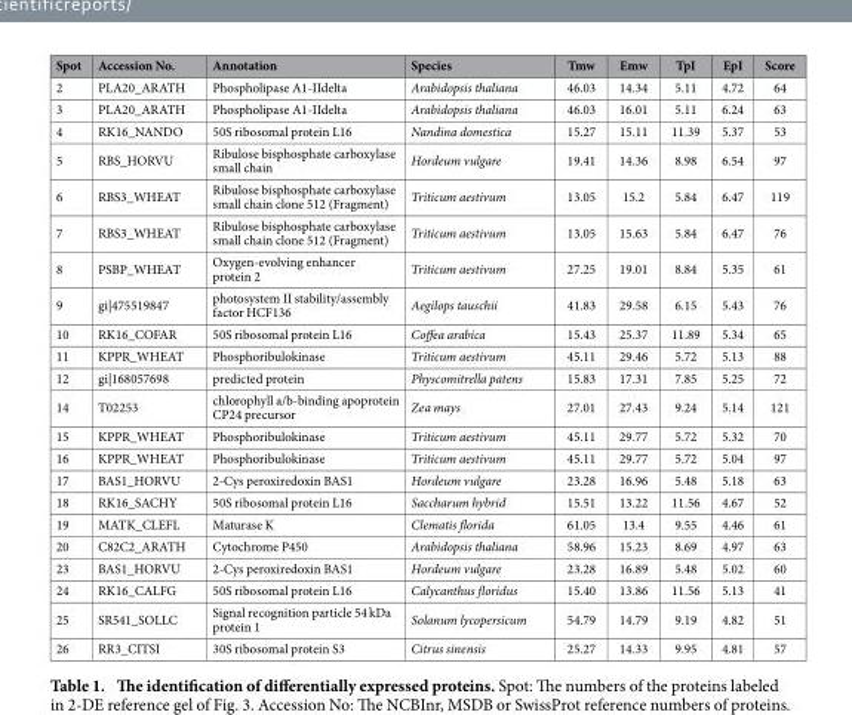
<table><thead><tr><td>Spot</td><td>Accession No.</td><td>Annotation</td><td>Species</td><td>Tmw</td><td>Emw</td><td>TpI</td><td>EpI</td><td>Score</td></tr></thead><tbody><tr><td>2</td><td>PLA20_ARATH</td><td>Phospholipase A1-IIdelta</td><td>Arabidopsis thaliana</td><td>46.03</td><td>14.34</td><td>5.11</td><td>4.72</td><td>64</td></tr><tr><td>3</td><td>PLA20_ARATH</td><td>Phospholipase A1-IIdelta</td><td>Arabidopsis thaliana</td><td>46.03</td><td>16.01</td><td>5.11</td><td>6.24</td><td>63</td></tr><tr><td>4</td><td>RK16_NANDO</td><td>50S ribosomal protein L16</td><td>Nandina domestica</td><td>15.27</td><td>15.11</td><td>11.39</td><td>5.37</td><td>53</td></tr><tr><td>5</td><td>RBS_HORVU</td><td>Ribulose bisphosphate carboxylase small chain</td><td>Hordeum vulgare</td><td>19.41</td><td>14.36</td><td>8.98</td><td>6.54</td><td>97</td></tr><tr><td>6</td><td>RBS3_WHEAT</td><td>Ribulose bisphosphate carboxylase small chain clone 512 (Fragment)</td><td>Triticum aestivum</td><td>13.05</td><td>15.2</td><td>5.84</td><td>6.47</td><td>119</td></tr><tr><td>7</td><td>RBS3_WHEAT</td><td>Ribulose bisphosphate carboxylase small chain clone 512 (Fragment)</td><td>Triticum aestivum</td><td>13.05</td><td>15.63</td><td>5.84</td><td>6.47</td><td>76</td></tr><tr><td>8</td><td>PSBP_WHEAT</td><td>Oxygen-evolving enhancer protein 2</td><td>Triticum aestivum</td><td>27.25</td><td>19.01</td><td>8.84</td><td>5.35</td><td>61</td></tr><tr><td>9</td><td>gi|475519847</td><td>photosystem II stability/assembly factor HCF136</td><td>Aegilops tauschii</td><td>41.83</td><td>29.58</td><td>6.15</td><td>5.43</td><td>76</td></tr><tr><td>10</td><td>RK16_COFAR</td><td>50S ribosomal protein L16</td><td>Coffea arabica</td><td>15.43</td><td>25.37</td><td>11.89</td><td>5.34</td><td>65</td></tr><tr><td>11</td><td>KPPR_WHEAT</td><td>Phosphoribulokinase</td><td>Triticum aestivum</td><td>45.11</td><td>29.46</td><td>5.72</td><td>5.13</td><td>88</td></tr><tr><td>12</td><td>gi|168057698</td><td>predicted protein</td><td>Physcomitrella patens</td><td>15.83</td><td>17.31</td><td>7.85</td><td>5.25</td><td>72</td></tr><tr><td>14</td><td>T02253</td><td>chlorophyll a/b-binding apoprotein CP24 precursor</td><td>Zea mays</td><td>27.01</td><td>27.43</td><td>9.24</td><td>5.14</td><td>121</td></tr><tr><td>15</td><td>KPPR_WHEAT</td><td>Phosphoribulokinase</td><td>Triticum aestivum</td><td>45.11</td><td>29.77</td><td>5.72</td><td>5.32</td><td>70</td></tr><tr><td>16</td><td>KPPR_WHEAT</td><td>Phosphoribulokinase</td><td>Triticum aestivum</td><td>45.11</td><td>29.77</td><td>5.72</td><td>5.04</td><td>97</td></tr><tr><td>17</td><td>BAS1_HORVU</td><td>2-Cys peroxiredoxin BAS1</td><td>Hordeum vulgare</td><td>23.28</td><td>16.96</td><td>5.48</td><td>5.18</td><td>63</td></tr><tr><td>18</td><td>RK16_SACHY</td><td>50S ribosomal protein L16</td><td>Saccharum hybrid</td><td>15.51</td><td>13.22</td><td>11.56</td><td>4.67</td><td>52</td></tr><tr><td>19</td><td>MATK_CLEFL</td><td>Maturase K</td><td>Clematis florida</td><td>61.05</td><td>13.4</td><td>9.55</td><td>4.46</td><td>61</td></tr><tr><td>20</td><td>C82C2_ARATH</td><td>Cytochrome P450</td><td>Arabidopsis thaliana</td><td>58.96</td><td>15.23</td><td>8.69</td><td>4.97</td><td>63</td></tr><tr><td>23</td><td>BAS1_HORVU</td><td>2-Cys peroxiredoxin BAS1</td><td>Hordeum vulgare</td><td>23.28</td><td>16.89</td><td>5.48</td><td>5.02</td><td>60</td></tr><tr><td>24</td><td>RK16_CALFG</td><td>50S ribosomal protein L16</td><td>Calycanthus floridus</td><td>15.40</td><td>13.86</td><td>11.56</td><td>5.13</td><td>41</td></tr><tr><td>25</td><td>SR541_SOLLC</td><td>Signal recognition particle 54 kDa protein 1</td><td>Solanum lycopersicum</td><td>54.79</td><td>14.79</td><td>9.19</td><td>4.82</td><td>51</td></tr><tr><td>26</td><td>RR3_CITSI</td><td>30S ribosomal protein S3</td><td>Citrus sinensis</td><td>25.27</td><td>14.33</td><td>9.95</td><td>4.81</td><td>57</td></tr></tbody></table>